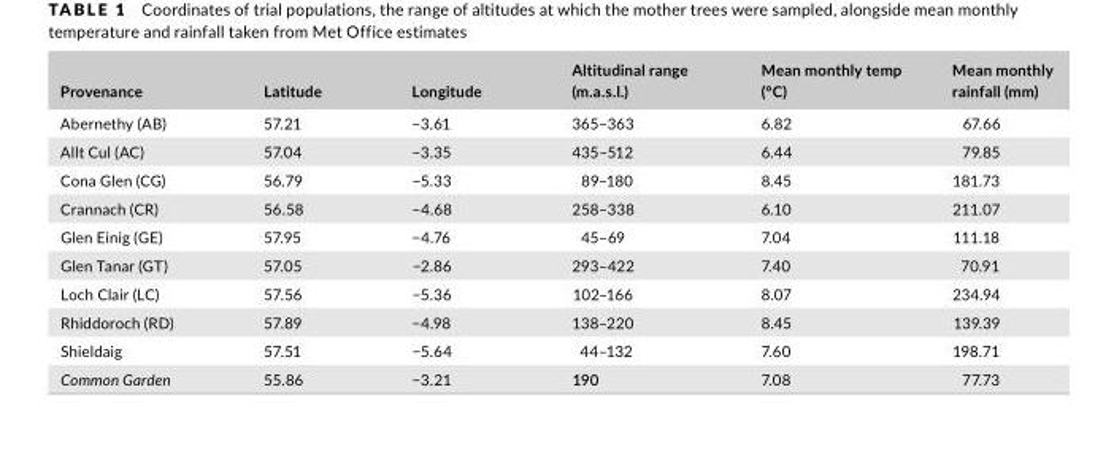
<table><thead><tr><td>Provenance</td><td>Latitude</td><td>Longitude</td><td>Altitudinal range (m.a.s.l.)</td><td>Mean monthly temp (°C)</td><td>Mean monthly rainfall (mm)</td></tr></thead><tbody><tr><td>Abernethy (AB)</td><td>57.21</td><td>−3.61</td><td>365–363</td><td>6.82</td><td>67.66</td></tr><tr><td>Allt Cul (AC)</td><td>57.04</td><td>−3.35</td><td>435–512</td><td>6.44</td><td>79.85</td></tr><tr><td>Cona Glen (CG)</td><td>56.79</td><td>−5.33</td><td>89–180</td><td>8.45</td><td>181.73</td></tr><tr><td>Crannach (CR)</td><td>56.58</td><td>−4.68</td><td>258–338</td><td>6.10</td><td>211.07</td></tr><tr><td>Glen Einig (GE)</td><td>57.95</td><td>−4.76</td><td>45–69</td><td>7.04</td><td>111.18</td></tr><tr><td>Glen Tanar (GT)</td><td>57.05</td><td>−2.86</td><td>293–422</td><td>7.40</td><td>70.91</td></tr><tr><td>Loch Clair (LC)</td><td>57.56</td><td>−5.36</td><td>102–166</td><td>8.07</td><td>234.94</td></tr><tr><td>Rhiddoroch (RD)</td><td>57.89</td><td>−4.98</td><td>138–220</td><td>8.45</td><td>139.39</td></tr><tr><td>Shieldaig</td><td>57.51</td><td>−5.64</td><td>44–132</td><td>7.60</td><td>198.71</td></tr><tr><td>Common Garden</td><td>55.86</td><td>−3.21</td><td>190</td><td>7.08</td><td>77.73</td></tr></tbody></table>